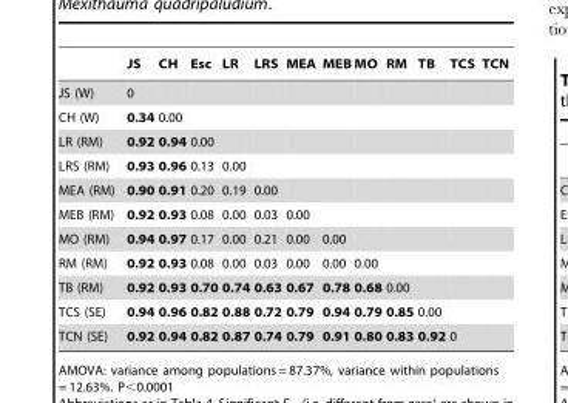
<table><thead><tr><td></td><td>JS</td><td>CH</td><td>Esc</td><td>LR</td><td>LRS</td><td>MEA</td><td>MEB</td><td>MO</td><td>RM</td><td>TB</td><td>TCS</td><td>TCN</td></tr></thead><tbody><tr><td>JS (W)</td><td>0</td><td></td><td></td><td></td><td></td><td></td><td></td><td></td><td></td><td></td><td></td><td></td></tr><tr><td>CH (W)</td><td>0.34</td><td>0.00</td><td></td><td></td><td></td><td></td><td></td><td></td><td></td><td></td><td></td><td></td></tr><tr><td>LR (RM)</td><td>0.92</td><td>0.94</td><td>0.00</td><td></td><td></td><td></td><td></td><td></td><td></td><td></td><td></td><td></td></tr><tr><td>LRS (RM)</td><td>0.93</td><td>0.96</td><td>0.13</td><td>0.00</td><td></td><td></td><td></td><td></td><td></td><td></td><td></td><td></td></tr><tr><td>MEA (RM)</td><td>0.90</td><td>0.91</td><td>0.20</td><td>0.19</td><td>0.00</td><td></td><td></td><td></td><td></td><td></td><td></td><td></td></tr><tr><td>MEB (RM)</td><td>0.92</td><td>0.93</td><td>0.08</td><td>0.00</td><td>0.03</td><td>0.00</td><td></td><td></td><td></td><td></td><td></td><td></td></tr><tr><td>MO (RM)</td><td>0.94</td><td>0.97</td><td>0.17</td><td>0.00</td><td>0.21</td><td>0.00</td><td>0.00</td><td></td><td></td><td></td><td></td><td></td></tr><tr><td>RM (RM)</td><td>0.92</td><td>0.93</td><td>0.08</td><td>0.00</td><td>0.03</td><td>0.00</td><td>0.00</td><td>0.00</td><td></td><td></td><td></td><td></td></tr><tr><td>TB (RM)</td><td>0.92</td><td>0.93</td><td>0.70</td><td>0.74</td><td>0.63</td><td>0.67</td><td>0.78</td><td>0.68</td><td>0.00</td><td></td><td></td><td></td></tr><tr><td>TCS (SE)</td><td>0.94</td><td>0.96</td><td>0.82</td><td>0.88</td><td>0.72</td><td>0.79</td><td>0.94</td><td>0.79</td><td>0.85</td><td>0.00</td><td></td><td></td></tr><tr><td>TCN (SE)</td><td>0.92</td><td>0.94</td><td>0.82</td><td>0.87</td><td>0.74</td><td>0.79</td><td>0.91</td><td>0.80</td><td>0.83</td><td>0.92</td><td>0</td><td></td></tr></tbody></table>